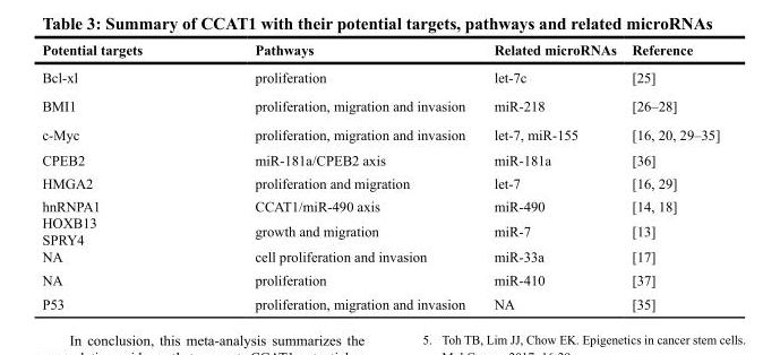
<table><thead><tr><td>Potential targets</td><td>Pathways</td><td>Related microRNAs</td><td>Reference</td></tr></thead><tbody><tr><td>Bcl-xl</td><td>proliferation</td><td>let-7c</td><td>[25]</td></tr><tr><td>BMI1</td><td>proliferation, migration and invasion</td><td>miR-218</td><td>[26–28]</td></tr><tr><td>c-Myc</td><td>proliferation, migration and invasion</td><td>let-7, miR-155</td><td>[16, 20, 29–35]</td></tr><tr><td>CPEB2</td><td>miR-181a/CPEB2 axis</td><td>miR-181a</td><td>[36]</td></tr><tr><td>HMGA2</td><td>proliferation and migration</td><td>let-7</td><td>[16, 29]</td></tr><tr><td>hnRNPA1</td><td>CCAT1/miR-490 axis</td><td>miR-490</td><td>[14, 18]</td></tr><tr><td>HOXB13 SPRY4</td><td>growth and migration</td><td>miR-7</td><td>[13]</td></tr><tr><td>NA</td><td>cell proliferation and invasion</td><td>miR-33a</td><td>[17]</td></tr><tr><td>NA</td><td>proliferation</td><td>miR-410</td><td>[37]</td></tr><tr><td>P53</td><td>proliferation, migration and invasion</td><td>NA</td><td>[35]</td></tr></tbody></table>